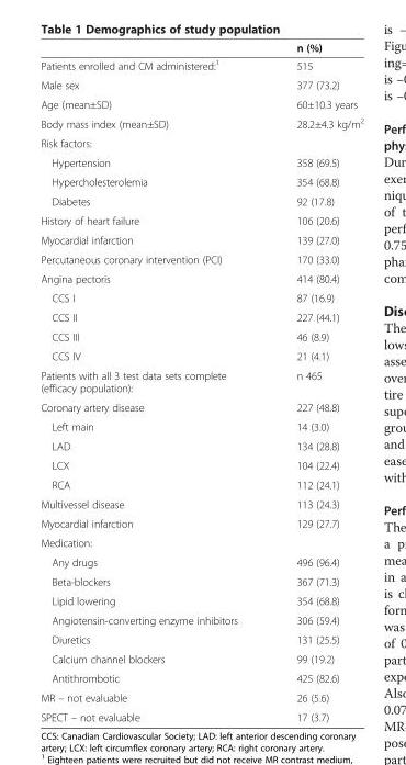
<table><thead><tr><td></td><td>n (%)</td></tr></thead><tbody><tr><td>Patients enrolled and CM administered:<sup>1</sup></td><td>515</td></tr><tr><td>Male sex</td><td>377 (73.2)</td></tr><tr><td>Age (mean±SD)</td><td>60±10.3 years</td></tr><tr><td>Body mass index (mean±SD)</td><td>28.2±4.3 kg/m<sup>2</sup></td></tr><tr><td colspan="2">Risk factors:</td></tr><tr><td>Hypertension</td><td>358 (69.5)</td></tr><tr><td>Hypercholesterolemia</td><td>354 (68.8)</td></tr><tr><td>Diabetes</td><td>92 (17.8)</td></tr><tr><td>History of heart failure</td><td>106 (20.6)</td></tr><tr><td>Myocardial infarction</td><td>139 (27.0)</td></tr><tr><td>Percutaneous coronary intervention (PCI)</td><td>170 (33.0)</td></tr><tr><td>Angina pectoris</td><td>414 (80.4)</td></tr><tr><td>CCS I</td><td>87 (16.9)</td></tr><tr><td>CCS II</td><td>227 (44.1)</td></tr><tr><td>CCS III</td><td>46 (8.9)</td></tr><tr><td>CCS IV</td><td>21 (4.1)</td></tr><tr><td>Patients with all 3 test data sets complete (efficacy population):</td><td>n 465</td></tr><tr><td>Coronary artery disease</td><td>227 (48.8)</td></tr><tr><td>Left main</td><td>14 (3.0)</td></tr><tr><td>LAD</td><td>134 (28.8)</td></tr><tr><td>LCX</td><td>104 (22.4)</td></tr><tr><td>RCA</td><td>112 (24.1)</td></tr><tr><td>Multivessel disease</td><td>113 (24.3)</td></tr><tr><td>Myocardial infarction</td><td>129 (27.7)</td></tr><tr><td colspan="2">Medication:</td></tr><tr><td>Any drugs</td><td>496 (96.4)</td></tr><tr><td>Beta-blockers</td><td>367 (71.3)</td></tr><tr><td>Lipid lowering</td><td>354 (68.8)</td></tr><tr><td>Angiotensin-converting enzyme inhibitors</td><td>306 (59.4)</td></tr><tr><td>Diuretics</td><td>131 (25.5)</td></tr><tr><td>Calcium channel blockers</td><td>99 (19.2)</td></tr><tr><td>Antithrombotic</td><td>425 (82.6)</td></tr><tr><td>MR – not evaluable</td><td>26 (5.6)</td></tr><tr><td>SPECT – not evaluable</td><td>17 (3.7)</td></tr></tbody></table>